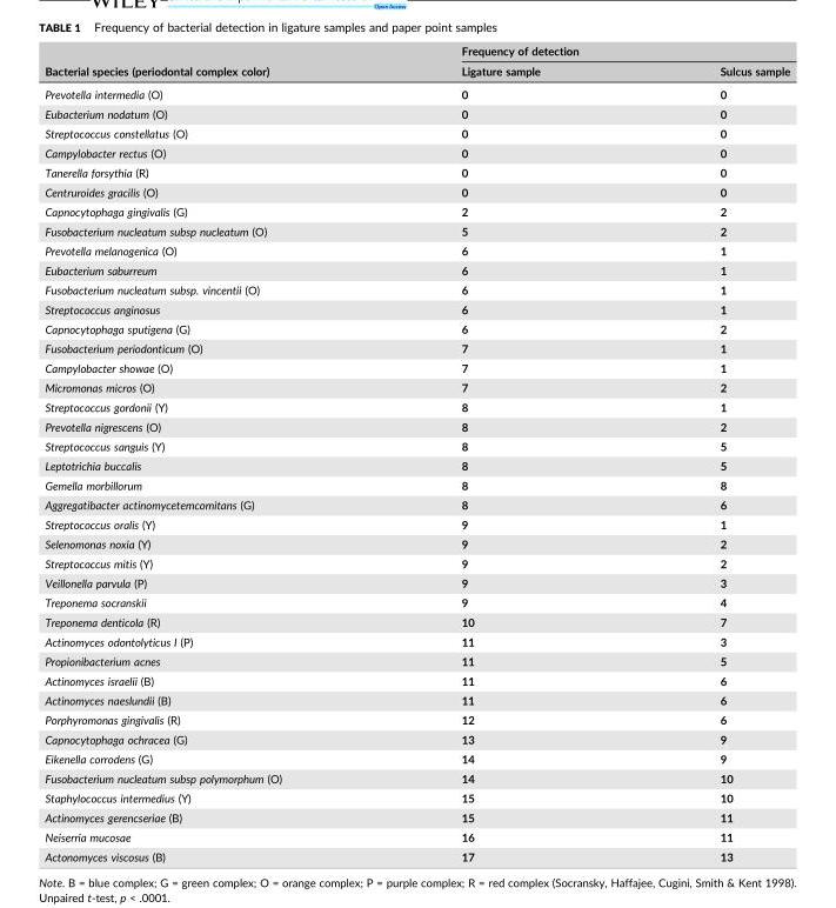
<table><thead><tr><td rowspan="2">Bacterial species (periodontal complex color)</td><td colspan="2">Frequency of detection</td></tr><tr><td>Ligature sample</td><td>Sulcus sample</td></tr></thead><tbody><tr><td>Prevotella intermedia (O)</td><td>0</td><td>0</td></tr><tr><td>Eubacterium nodatum (O)</td><td>0</td><td>0</td></tr><tr><td>Streptococcus constellatus (O)</td><td>0</td><td>0</td></tr><tr><td>Campylobacter rectus (O)</td><td>0</td><td>0</td></tr><tr><td>Tanerella forsythia (R)</td><td>0</td><td>0</td></tr><tr><td>Centruroides gracilis (O)</td><td>0</td><td>0</td></tr><tr><td>Capnocytophaga gingivalis (G)</td><td>2</td><td>2</td></tr><tr><td>Fusobacterium nucleatum subsp nucleatum (O)</td><td>5</td><td>2</td></tr><tr><td>Prevotella melanogenica (O)</td><td>6</td><td>1</td></tr><tr><td>Eubacterium saburreum</td><td>6</td><td>1</td></tr><tr><td>Fusobacterium nucleatum subsp. vincentii (O)</td><td>6</td><td>1</td></tr><tr><td>Streptococcus anginosus</td><td>6</td><td>1</td></tr><tr><td>Capnocytophaga sputigena (G)</td><td>6</td><td>2</td></tr><tr><td>Fusobacterium periodonticum (O)</td><td>7</td><td>1</td></tr><tr><td>Campylobacter showae (O)</td><td>7</td><td>1</td></tr><tr><td>Micromonas micros (O)</td><td>7</td><td>2</td></tr><tr><td>Streptococcus gordonii (Y)</td><td>8</td><td>1</td></tr><tr><td>Prevotella nigrescens (O)</td><td>8</td><td>2</td></tr><tr><td>Streptococcus sanguis (Y)</td><td>8</td><td>5</td></tr><tr><td>Leptotrichia buccalis</td><td>8</td><td>5</td></tr><tr><td>Gemella morbillorum</td><td>8</td><td>8</td></tr><tr><td>Aggregatibacter actinomycetemcomitans (G)</td><td>8</td><td>6</td></tr><tr><td>Streptococcus oralis (Y)</td><td>9</td><td>1</td></tr><tr><td>Selenomonas noxia (Y)</td><td>9</td><td>2</td></tr><tr><td>Streptococcus mitis (Y)</td><td>9</td><td>2</td></tr><tr><td>Veillonella parvula (P)</td><td>9</td><td>3</td></tr><tr><td>Treponema socranskii</td><td>9</td><td>4</td></tr><tr><td>Treponema denticola (R)</td><td>10</td><td>7</td></tr><tr><td>Actinomyces odontolyticus I (P)</td><td>11</td><td>3</td></tr><tr><td>Propionibacterium acnes</td><td>11</td><td>5</td></tr><tr><td>Actinomyces israelii (B)</td><td>11</td><td>6</td></tr><tr><td>Actinomyces naeslundii (B)</td><td>11</td><td>6</td></tr><tr><td>Porphyromonas gingivalis (R)</td><td>12</td><td>6</td></tr><tr><td>Capnocytophaga ochracea (G)</td><td>13</td><td>9</td></tr><tr><td>Eikenella corrodens (G)</td><td>14</td><td>9</td></tr><tr><td>Fusobacterium nucleatum subsp polymorphum (O)</td><td>14</td><td>10</td></tr><tr><td>Staphylococcus intermedius (Y)</td><td>15</td><td>10</td></tr><tr><td>Actinomyces gerencseriae (B)</td><td>15</td><td>11</td></tr><tr><td>Neiserria mucosae</td><td>16</td><td>11</td></tr><tr><td>Actonomyces viscosus (B)</td><td>17</td><td>13</td></tr></tbody></table>